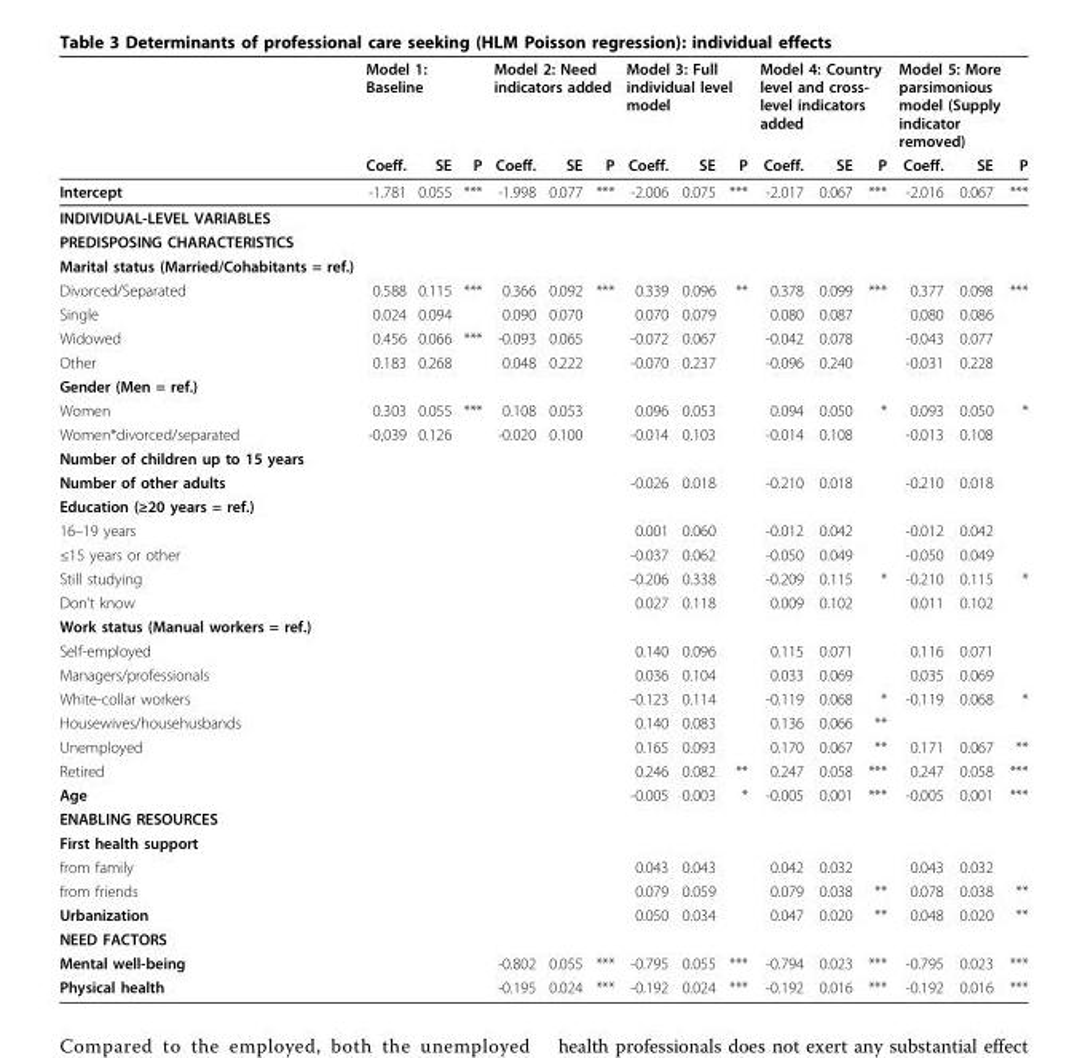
<table><thead><tr><td rowspan="2"></td><td colspan="3">Model 1: Baseline</td><td colspan="3">Model 2: Need indicators added</td><td colspan="3">Model 3: Full individual level model</td><td colspan="3">Model 4: Country level and cross- level indicators added</td><td colspan="3">Model 5: More parsimonious model (Supply indicator removed)</td></tr><tr><td>Coeff.</td><td>SE</td><td>P</td><td>Coeff.</td><td>SE</td><td>P</td><td>Coeff.</td><td>SE</td><td>P</td><td>Coeff.</td><td>SE</td><td>P</td><td>Coeff.</td><td>SE</td><td>P</td></tr></thead><tbody><tr><td>Intercept</td><td>-1.781</td><td>0.055</td><td>***</td><td>-1.998</td><td>0.077</td><td>***</td><td>-2.006</td><td>0.075</td><td>***</td><td>-2.017</td><td>0.067</td><td>***</td><td>-2.016</td><td>0.067</td><td>***</td></tr><tr><td colspan="16">INDIVIDUAL-LEVEL VARIABLES</td></tr><tr><td colspan="16">PREDISPOSING CHARACTERISTICS</td></tr><tr><td colspan="16">Marital status (Married/Cohabitants = ref.)</td></tr><tr><td>Divorced/Separated</td><td>0.588</td><td>0.115</td><td>***</td><td>0.366</td><td>0.092</td><td>***</td><td>0.339</td><td>0.096</td><td>**</td><td>0.378</td><td>0.099</td><td>***</td><td>0.377</td><td>0.098</td><td>***</td></tr><tr><td>Single</td><td>0.024</td><td>0.094</td><td></td><td>0.090</td><td>0.070</td><td></td><td>0.070</td><td>0.079</td><td></td><td>0.080</td><td>0.087</td><td></td><td>0.080</td><td>0.086</td><td></td></tr><tr><td>Widowed</td><td>0.456</td><td>0.066</td><td>***</td><td>-0.093</td><td>0.065</td><td></td><td>-0.072</td><td>0.067</td><td></td><td>-0.042</td><td>0.078</td><td></td><td>-0.043</td><td>0.077</td><td></td></tr><tr><td>Other</td><td>0.183</td><td>0.268</td><td></td><td>0.048</td><td>0.222</td><td></td><td>-0.070</td><td>0.237</td><td></td><td>-0.096</td><td>0.240</td><td></td><td>-0.031</td><td>0.228</td><td></td></tr><tr><td colspan="16">Gender (Men = ref.)</td></tr><tr><td>Women</td><td>0.303</td><td>0.055</td><td>***</td><td>0.108</td><td>0.053</td><td></td><td>0.096</td><td>0.053</td><td></td><td>0.094</td><td>0.050</td><td>*</td><td>0.093</td><td>0.050</td><td>*</td></tr><tr><td>Women*divorced/separated</td><td>-0,039</td><td>0.126</td><td></td><td>-0.020</td><td>0.100</td><td></td><td>-0.014</td><td>0.103</td><td></td><td>-0.014</td><td>0.108</td><td></td><td>-0.013</td><td>0.108</td><td></td></tr><tr><td colspan="16">Number of children up to 15 years</td></tr><tr><td>Number of other adults</td><td></td><td></td><td></td><td></td><td></td><td></td><td>-0.026</td><td>0.018</td><td></td><td>-0.210</td><td>0.018</td><td></td><td>-0.210</td><td>0.018</td><td></td></tr><tr><td colspan="16">Education (≥20 years = ref.)</td></tr><tr><td>16–19 years</td><td></td><td></td><td></td><td></td><td></td><td></td><td>0.001</td><td>0.060</td><td></td><td>-0.012</td><td>0.042</td><td></td><td>-0.012</td><td>0.042</td><td></td></tr><tr><td>≤15 years or other</td><td></td><td></td><td></td><td></td><td></td><td></td><td>-0.037</td><td>0.062</td><td></td><td>-0.050</td><td>0.049</td><td></td><td>-0.050</td><td>0.049</td><td></td></tr><tr><td>Still studying</td><td></td><td></td><td></td><td></td><td></td><td></td><td>-0.206</td><td>0.338</td><td></td><td>-0.209</td><td>0.115</td><td>*</td><td>-0.210</td><td>0.115</td><td>*</td></tr><tr><td>Don’t know</td><td></td><td></td><td></td><td></td><td></td><td></td><td>0.027</td><td>0.118</td><td></td><td>0.009</td><td>0.102</td><td></td><td>0.011</td><td>0.102</td><td></td></tr><tr><td colspan="16">Work status (Manual workers = ref.)</td></tr><tr><td>Self-employed</td><td></td><td></td><td></td><td></td><td></td><td></td><td>0.140</td><td>0.096</td><td></td><td>0.115</td><td>0.071</td><td></td><td>0.116</td><td>0.071</td><td></td></tr><tr><td>Managers/professionals</td><td></td><td></td><td></td><td></td><td></td><td></td><td>0.036</td><td>0.104</td><td></td><td>0.033</td><td>0.069</td><td></td><td>0.035</td><td>0.069</td><td></td></tr><tr><td>White-collar workers</td><td></td><td></td><td></td><td></td><td></td><td></td><td>-0.123</td><td>0.114</td><td></td><td>-0.119</td><td>0.068</td><td>*</td><td>-0.119</td><td>0.068</td><td>*</td></tr><tr><td>Housewives/househusbands</td><td></td><td></td><td></td><td></td><td></td><td></td><td>0.140</td><td>0.083</td><td></td><td>0.136</td><td>0.066</td><td>**</td><td></td><td></td><td></td></tr><tr><td>Unemployed</td><td></td><td></td><td></td><td></td><td></td><td></td><td>0.165</td><td>0.093</td><td></td><td>0.170</td><td>0.067</td><td>**</td><td>0.171</td><td>0.067</td><td>**</td></tr><tr><td>Retired</td><td></td><td></td><td></td><td></td><td></td><td></td><td>0.246</td><td>0.082</td><td>**</td><td>0.247</td><td>0.058</td><td>***</td><td>0.247</td><td>0.058</td><td>***</td></tr><tr><td>Age</td><td></td><td></td><td></td><td></td><td></td><td></td><td>-0.005</td><td>0.003</td><td>*</td><td>-0.005</td><td>0.001</td><td>***</td><td>-0.005</td><td>0.001</td><td>***</td></tr><tr><td colspan="16">ENABLING RESOURCES</td></tr><tr><td colspan="16">First health support</td></tr><tr><td>from family</td><td></td><td></td><td></td><td></td><td></td><td></td><td>0.043</td><td>0.043</td><td></td><td>0.042</td><td>0.032</td><td></td><td>0.043</td><td>0.032</td><td></td></tr><tr><td>from friends</td><td></td><td></td><td></td><td></td><td></td><td></td><td>0.079</td><td>0.059</td><td></td><td>0.079</td><td>0.038</td><td>**</td><td>0.078</td><td>0.038</td><td>**</td></tr><tr><td>Urbanization</td><td></td><td></td><td></td><td></td><td></td><td></td><td>0.050</td><td>0.034</td><td></td><td>0.047</td><td>0.020</td><td>**</td><td>0.048</td><td>0.020</td><td>**</td></tr><tr><td colspan="16">NEED FACTORS</td></tr><tr><td>Mental well-being</td><td></td><td></td><td></td><td>-0.802</td><td>0.055</td><td>***</td><td>-0.795</td><td>0.055</td><td>***</td><td>-0.794</td><td>0.023</td><td>***</td><td>-0.795</td><td>0.023</td><td>***</td></tr><tr><td>Physical health</td><td></td><td></td><td></td><td>-0.195</td><td>0.024</td><td>***</td><td>-0.192</td><td>0.024</td><td>***</td><td>-0.192</td><td>0.016</td><td>***</td><td>-0.192</td><td>0.016</td><td>***</td></tr></tbody></table>